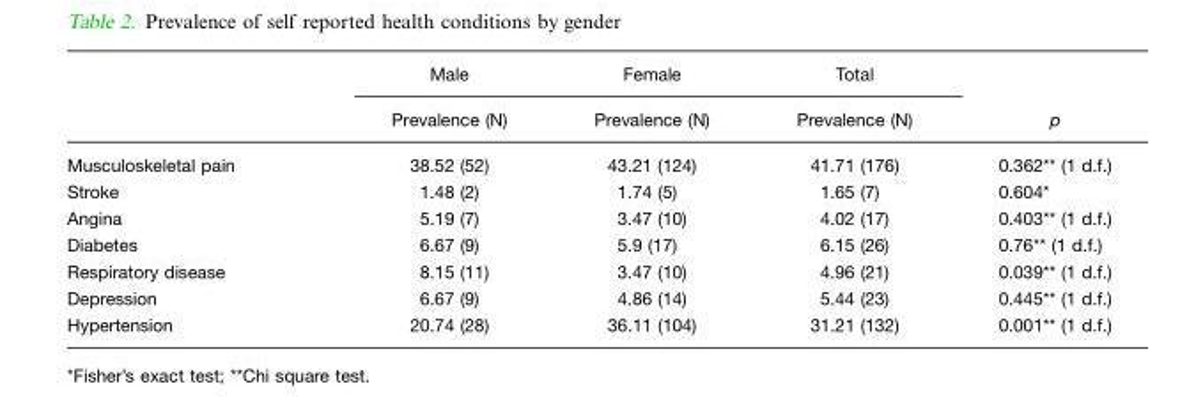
<table><thead><tr><td rowspan="2"></td><td rowspan="2">Male Prevalence (N)</td><td rowspan="2">Female Prevalence (N)</td><td rowspan="2">Total Prevalence (N)</td><td rowspan="2">p</td></tr><tr></tr></thead><tbody><tr><td>Musculoskeletal pain</td><td>38.52 (52)</td><td>43.21 (124)</td><td>41.71 (176)</td><td>0.362** (1 d.f.)</td></tr><tr><td>Stroke</td><td>1.48 (2)</td><td>1.74 (5)</td><td>1.65 (7)</td><td>0.604*</td></tr><tr><td>Angina</td><td>5.19 (7)</td><td>3.47 (10)</td><td>4.02 (17)</td><td>0.403** (1 d.f.)</td></tr><tr><td>Diabetes</td><td>6.67 (9)</td><td>5.9 (17)</td><td>6.15 (26)</td><td>0.76** (1 d.f.)</td></tr><tr><td>Respiratory disease</td><td>8.15 (11)</td><td>3.47 (10)</td><td>4.96 (21)</td><td>0.039** (1 d.f.)</td></tr><tr><td>Depression</td><td>6.67 (9)</td><td>4.86 (14)</td><td>5.44 (23)</td><td>0.445** (1 d.f.)</td></tr><tr><td>Hypertension</td><td>20.74 (28)</td><td>36.11 (104)</td><td>31.21 (132)</td><td>0.001** (1 d.f.)</td></tr></tbody></table>